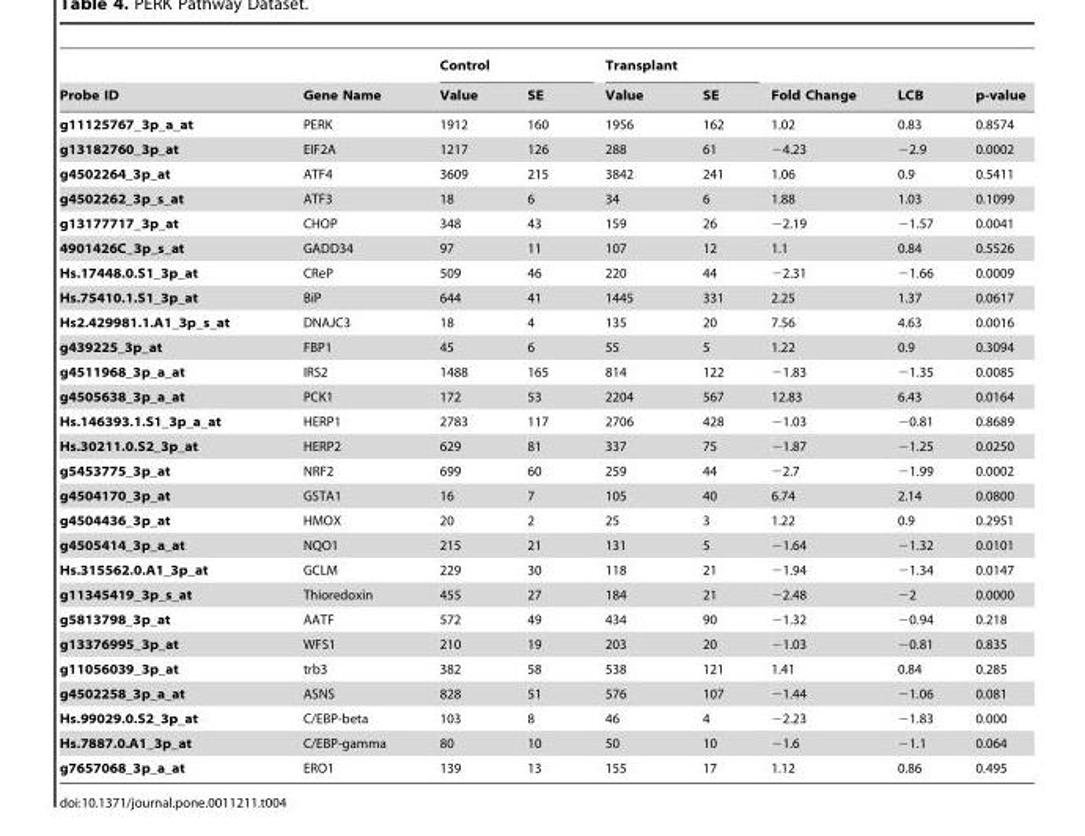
<table><thead><tr><td rowspan="2">Probe ID</td><td rowspan="2">Gene Name</td><td colspan="2">Control</td><td colspan="2">Transplant</td><td rowspan="2">Fold Change</td><td rowspan="2">LCB</td><td rowspan="2">p-value</td></tr><tr><td>Value</td><td>SE</td><td>Value</td><td>SE</td></tr></thead><tbody><tr><td>g11125767_3p_a_at</td><td>PERK</td><td>1912</td><td>160</td><td>1956</td><td>162</td><td>1.02</td><td>0.83</td><td>0.8574</td></tr><tr><td>g13182760_3p_at</td><td>EIF2A</td><td>1217</td><td>126</td><td>288</td><td>61</td><td>−4.23</td><td>−2.9</td><td>0.0002</td></tr><tr><td>g4502264_3p_at</td><td>ATF4</td><td>3609</td><td>215</td><td>3842</td><td>241</td><td>1.06</td><td>0.9</td><td>0.5411</td></tr><tr><td>g4502262_3p_s_at</td><td>ATF3</td><td>18</td><td>6</td><td>34</td><td>6</td><td>1.88</td><td>1.03</td><td>0.1099</td></tr><tr><td>g13177717_3p_at</td><td>CHOP</td><td>348</td><td>43</td><td>159</td><td>26</td><td>−2.19</td><td>−1.57</td><td>0.0041</td></tr><tr><td>4901426C_3p_s_at</td><td>GADD34</td><td>97</td><td>11</td><td>107</td><td>12</td><td>1.1</td><td>0.84</td><td>0.5526</td></tr><tr><td>Hs.17448.0.S1_3p_at</td><td>CReP</td><td>509</td><td>46</td><td>220</td><td>44</td><td>−2.31</td><td>−1.66</td><td>0.0009</td></tr><tr><td>Hs.75410.1.S1_3p_at</td><td>BiP</td><td>644</td><td>41</td><td>1445</td><td>331</td><td>2.25</td><td>1.37</td><td>0.0617</td></tr><tr><td>Hs2.429981.1.A1_3p_s_at</td><td>DNAJC3</td><td>18</td><td>4</td><td>135</td><td>20</td><td>7.56</td><td>4.63</td><td>0.0016</td></tr><tr><td>g439225_3p_at</td><td>FBP1</td><td>45</td><td>6</td><td>55</td><td>5</td><td>1.22</td><td>0.9</td><td>0.3094</td></tr><tr><td>g4511968_3p_a_at</td><td>IRS2</td><td>1488</td><td>165</td><td>814</td><td>122</td><td>−1.83</td><td>−1.35</td><td>0.0085</td></tr><tr><td>g4505638_3p_a_at</td><td>PCK1</td><td>172</td><td>53</td><td>2204</td><td>567</td><td>12.83</td><td>6.43</td><td>0.0164</td></tr><tr><td>Hs.146393.1.S1_3p_a_at</td><td>HERP1</td><td>2783</td><td>117</td><td>2706</td><td>428</td><td>−1.03</td><td>−0.81</td><td>0.8689</td></tr><tr><td>Hs.30211.0.S2_3p_at</td><td>HERP2</td><td>629</td><td>81</td><td>337</td><td>75</td><td>−1.87</td><td>−1.25</td><td>0.0250</td></tr><tr><td>g5453775_3p_at</td><td>NRF2</td><td>699</td><td>60</td><td>259</td><td>44</td><td>−2.7</td><td>−1.99</td><td>0.0002</td></tr><tr><td>g4504170_3p_at</td><td>GSTA1</td><td>16</td><td>7</td><td>105</td><td>40</td><td>6.74</td><td>2.14</td><td>0.0800</td></tr><tr><td>g4504436_3p_at</td><td>HMOX</td><td>20</td><td>2</td><td>25</td><td>3</td><td>1.22</td><td>0.9</td><td>0.2951</td></tr><tr><td>g4505414_3p_a_at</td><td>NQO1</td><td>215</td><td>21</td><td>131</td><td>5</td><td>−1.64</td><td>−1.32</td><td>0.0101</td></tr><tr><td>Hs.315562.0.A1_3p_at</td><td>GCLM</td><td>229</td><td>30</td><td>118</td><td>21</td><td>−1.94</td><td>−1.34</td><td>0.0147</td></tr><tr><td>g11345419_3p_s_at</td><td>Thioredoxin</td><td>455</td><td>27</td><td>184</td><td>21</td><td>−2.48</td><td>−2</td><td>0.0000</td></tr><tr><td>g5813798_3p_at</td><td>AATF</td><td>572</td><td>49</td><td>434</td><td>90</td><td>−1.32</td><td>−0.94</td><td>0.218</td></tr><tr><td>g13376995_3p_at</td><td>WFS1</td><td>210</td><td>19</td><td>203</td><td>20</td><td>−1.03</td><td>−0.81</td><td>0.835</td></tr><tr><td>g11056039_3p_at</td><td>trb3</td><td>382</td><td>58</td><td>538</td><td>121</td><td>1.41</td><td>0.84</td><td>0.285</td></tr><tr><td>g4502258_3p_a_at</td><td>ASNS</td><td>828</td><td>51</td><td>576</td><td>107</td><td>−1.44</td><td>−1.06</td><td>0.081</td></tr><tr><td>Hs.99029.0.S2_3p_at</td><td>C/EBP-beta</td><td>103</td><td>8</td><td>46</td><td>4</td><td>−2.23</td><td>−1.83</td><td>0.000</td></tr><tr><td>Hs.7887.0.A1_3p_at</td><td>C/EBP-gamma</td><td>80</td><td>10</td><td>50</td><td>10</td><td>−1.6</td><td>−1.1</td><td>0.064</td></tr><tr><td>g7657068_3p_a_at</td><td>ERO1</td><td>139</td><td>13</td><td>155</td><td>17</td><td>1.12</td><td>0.86</td><td>0.495</td></tr></tbody></table>